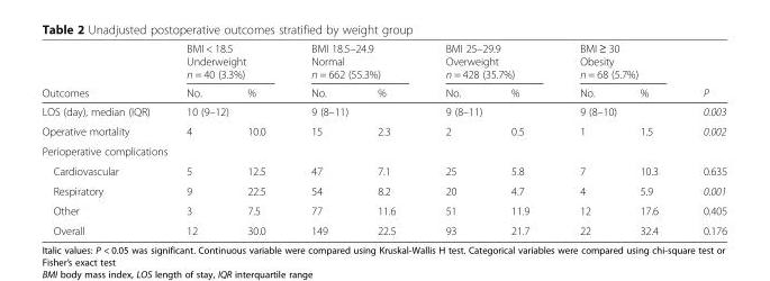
<table><thead><tr><td rowspan="4">Outcomes</td><td rowspan="3" colspan="2">BMI &lt; 18.5 Underweight n = 40 (3.3%)</td><td rowspan="3" colspan="2">BMI 18.5–24.9 Normal n = 662 (55.3%)</td><td rowspan="3" colspan="2">BMI 25–29.9 Overweight n = 428 (35.7%)</td><td rowspan="3" colspan="2">BMI ≥ 30 Obesity n = 68 (5.7%)</td><td rowspan="4">P</td></tr><tr></tr><tr></tr><tr><td>No.</td><td>%</td><td>No.</td><td>%</td><td>No.</td><td>%</td><td>No.</td><td>%</td></tr></thead><tbody><tr><td>LOS (day), median (IQR)</td><td colspan="2">10 (9–12)</td><td colspan="2">9 (8–11)</td><td colspan="2">9 (8–11)</td><td colspan="2">9 (8–10)</td><td>0.003</td></tr><tr><td>Operative mortality</td><td>4</td><td>10.0</td><td>15</td><td>2.3</td><td>2</td><td>0.5</td><td>1</td><td>1.5</td><td>0.002</td></tr><tr><td colspan="10">Perioperative complications</td></tr><tr><td>Cardiovascular</td><td>5</td><td>12.5</td><td>47</td><td>7.1</td><td>25</td><td>5.8</td><td>7</td><td>10.3</td><td>0.635</td></tr><tr><td>Respiratory</td><td>9</td><td>22.5</td><td>54</td><td>8.2</td><td>20</td><td>4.7</td><td>4</td><td>5.9</td><td>0.001</td></tr><tr><td>Other</td><td>3</td><td>7.5</td><td>77</td><td>11.6</td><td>51</td><td>11.9</td><td>12</td><td>17.6</td><td>0.405</td></tr><tr><td>Overall</td><td>12</td><td>30.0</td><td>149</td><td>22.5</td><td>93</td><td>21.7</td><td>22</td><td>32.4</td><td>0.176</td></tr></tbody></table>